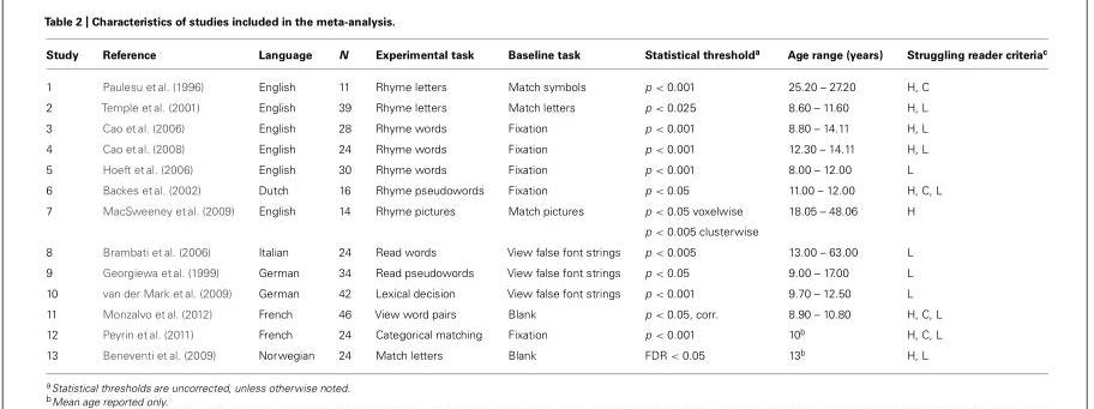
<table><thead><tr><td>Study</td><td>Reference</td><td>Language</td><td>N</td><td>Experimental task</td><td>Baseline task</td><td>Statistical threshold<sup>a</sup></td><td>Age range (years)</td><td>Struggling reader criteria<sup>c</sup></td></tr></thead><tbody><tr><td>1</td><td>Paulesu et al. (1996)</td><td>English</td><td>11</td><td>Rhyme letters</td><td>Match symbols</td><td>p &lt; 0.001</td><td>25.20 – 27.20</td><td>H, C</td></tr><tr><td>2</td><td>Temple et al. (2001)</td><td>English</td><td>39</td><td>Rhyme letters</td><td>Match letters</td><td>p &lt; 0.025</td><td>8.60 – 11.60</td><td>H, L</td></tr><tr><td>3</td><td>Cao et al. (2006)</td><td>English</td><td>28</td><td>Rhyme words</td><td>Fixation</td><td>p &lt; 0.001</td><td>8.80 – 14.11</td><td>H, L</td></tr><tr><td>4</td><td>Cao et al. (2008)</td><td>English</td><td>24</td><td>Rhyme words</td><td>Fixation</td><td>p &lt; 0.001</td><td>12.30 – 14.11</td><td>H, L</td></tr><tr><td>5</td><td>Hoeft et al. (2006)</td><td>English</td><td>30</td><td>Rhyme words</td><td>Fixation</td><td>p &lt; 0.001</td><td>8.00 – 12.00</td><td>L</td></tr><tr><td>6</td><td>Backes et al. (2002)</td><td>Dutch</td><td>16</td><td>Rhyme pseudowords</td><td>Fixation</td><td>p &lt; 0.05</td><td>11.00 – 12.00</td><td>H, C, L</td></tr><tr><td>7</td><td>MacSweeney et al. (2009)</td><td>English</td><td>14</td><td>Rhyme pictures</td><td>Match pictures</td><td>p &lt; 0.05 voxelwise p &lt; 0.005 clusterwise</td><td>18.05 – 48.06</td><td>H</td></tr><tr><td>8</td><td>Brambati et al. (2006)</td><td>Italian</td><td>24</td><td>Read words</td><td>View false font strings</td><td>p &lt; 0.005</td><td>13.00 – 63.00</td><td>L</td></tr><tr><td>9</td><td>Georgiewa et al. (1999)</td><td>German</td><td>34</td><td>Read pseudowords</td><td>View false font strings</td><td>p &lt; 0.05</td><td>9.00 – 17.00</td><td>L</td></tr><tr><td>10</td><td>van der Mark et al. (2009)</td><td>German</td><td>42</td><td>Lexical decision</td><td>View false font strings</td><td>p &lt; 0.001</td><td>9.70 – 12.50</td><td>L</td></tr><tr><td>11</td><td>Monzalvo et al. (2012)</td><td>French</td><td>46</td><td>View word pairs</td><td>Blank</td><td>p &lt; 0.05, corr.</td><td>8.90 – 10.80</td><td>H, C, L</td></tr><tr><td>12</td><td>Peyrin et al. (2011)</td><td>French</td><td>24</td><td>Categorical matching</td><td>Fixation</td><td>p &lt; 0.001</td><td>10<sup>b</sup></td><td>H, C, L</td></tr><tr><td>13</td><td>Beneventi et al. (2009)</td><td>Norwegian</td><td>24</td><td>Match letters</td><td>Blank</td><td>FDR &lt; 0.05</td><td>13<sup>b</sup></td><td>H, L</td></tr></tbody></table>